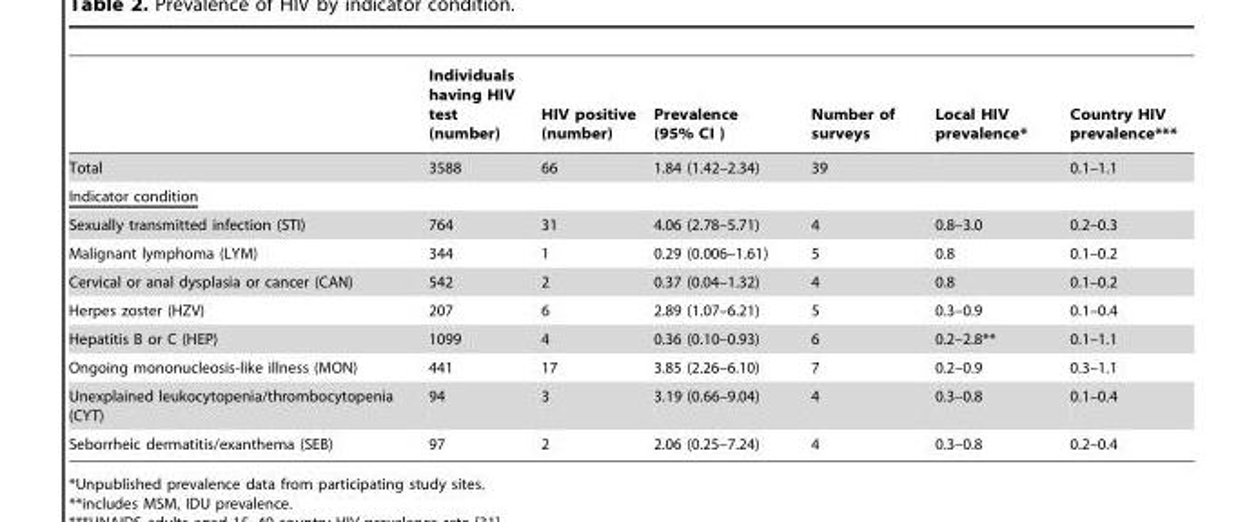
<table><thead><tr><td></td><td>Individuals having HIV test (number)</td><td>HIV positive (number)</td><td>Prevalence (95% CI )</td><td>Number of surveys</td><td>Local HIV prevalence*</td><td>Country HIV prevalence***</td></tr></thead><tbody><tr><td>Total</td><td>3588</td><td>66</td><td>1.84 (1.42–2.34)</td><td>39</td><td></td><td>0.1–1.1</td></tr><tr><td colspan="7">Indicator condition</td></tr><tr><td>Sexually transmitted infection (STI)</td><td>764</td><td>31</td><td>4.06 (2.78–5.71)</td><td>4</td><td>0.8–3.0</td><td>0.2–0.3</td></tr><tr><td>Malignant lymphoma (LYM)</td><td>344</td><td>1</td><td>0.29 (0.006–1.61)</td><td>5</td><td>0.8</td><td>0.1–0.2</td></tr><tr><td>Cervical or anal dysplasia or cancer (CAN)</td><td>542</td><td>2</td><td>0.37 (0.04–1.32)</td><td>4</td><td>0.8</td><td>0.1–0.2</td></tr><tr><td>Herpes zoster (HZV)</td><td>207</td><td>6</td><td>2.89 (1.07–6.21)</td><td>5</td><td>0.3–0.9</td><td>0.1–0.4</td></tr><tr><td>Hepatitis B or C (HEP)</td><td>1099</td><td>4</td><td>0.36 (0.10–0.93)</td><td>6</td><td>0.2–2.8**</td><td>0.1–1.1</td></tr><tr><td>Ongoing mononucleosis-like illness (MON)</td><td>441</td><td>17</td><td>3.85 (2.26–6.10)</td><td>7</td><td>0.2–0.9</td><td>0.3–1.1</td></tr><tr><td>Unexplained leukocytopenia/thrombocytopenia (CYT)</td><td>94</td><td>3</td><td>3.19 (0.66–9.04)</td><td>4</td><td>0.3–0.8</td><td>0.1–0.4</td></tr><tr><td>Seborrheic dermatitis/exanthema (SEB)</td><td>97</td><td>2</td><td>2.06 (0.25–7.24)</td><td>4</td><td>0.3–0.8</td><td>0.2–0.4</td></tr></tbody></table>